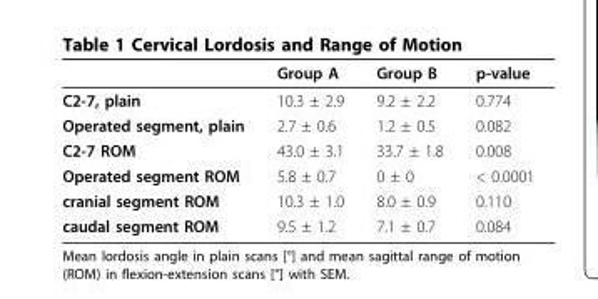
<table><thead><tr><td></td><td>Group A</td><td>Group B</td><td>p-value</td></tr></thead><tbody><tr><td>C2-7, plain</td><td>10.3 ± 2.9</td><td>9.2 ± 2.2</td><td>0.774</td></tr><tr><td>Operated segment, plain</td><td>2.7 ± 0.6</td><td>1.2 ± 0.5</td><td>0.082</td></tr><tr><td>C2-7 ROM</td><td>43.0 ± 3.1</td><td>33.7 ± 1.8</td><td>0.008</td></tr><tr><td>Operated segment ROM</td><td>5.8 ± 0.7</td><td>0 ± 0</td><td>&lt; 0.0001</td></tr><tr><td>cranial segment ROM</td><td>10.3 ± 1.0</td><td>8.0 ± 0.9</td><td>0.110</td></tr><tr><td>caudal segment ROM</td><td>9.5 ± 1.2</td><td>7.1 ± 0.7</td><td>0.084</td></tr></tbody></table>